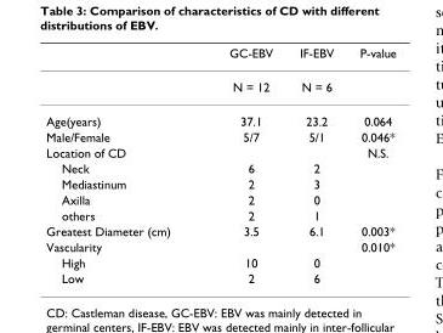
<table><thead><tr><td></td><td>GC-EBV</td><td>IF-EBV</td><td>P-value</td></tr></thead><tbody><tr><td></td><td>N = 12</td><td>N = 6</td><td></td></tr><tr><td>Age(years)</td><td>37.1</td><td>23.2</td><td>0.064</td></tr><tr><td>Male/Female</td><td>5/7</td><td>5/1</td><td>0.046*</td></tr><tr><td>Location of CD</td><td></td><td></td><td>N.S.</td></tr><tr><td>Neck</td><td>6</td><td>2</td><td></td></tr><tr><td>Mediastinum</td><td>2</td><td>3</td><td></td></tr><tr><td>Axilla</td><td>2</td><td>0</td><td></td></tr><tr><td>others</td><td>2</td><td>1</td><td></td></tr><tr><td>Greatest Diameter (cm)</td><td>3.5</td><td>6.1</td><td>0.003*</td></tr><tr><td>Vascularity</td><td></td><td></td><td>0.010*</td></tr><tr><td>High</td><td>10</td><td>0</td><td></td></tr><tr><td>Low</td><td>2</td><td>6</td><td></td></tr></tbody></table>